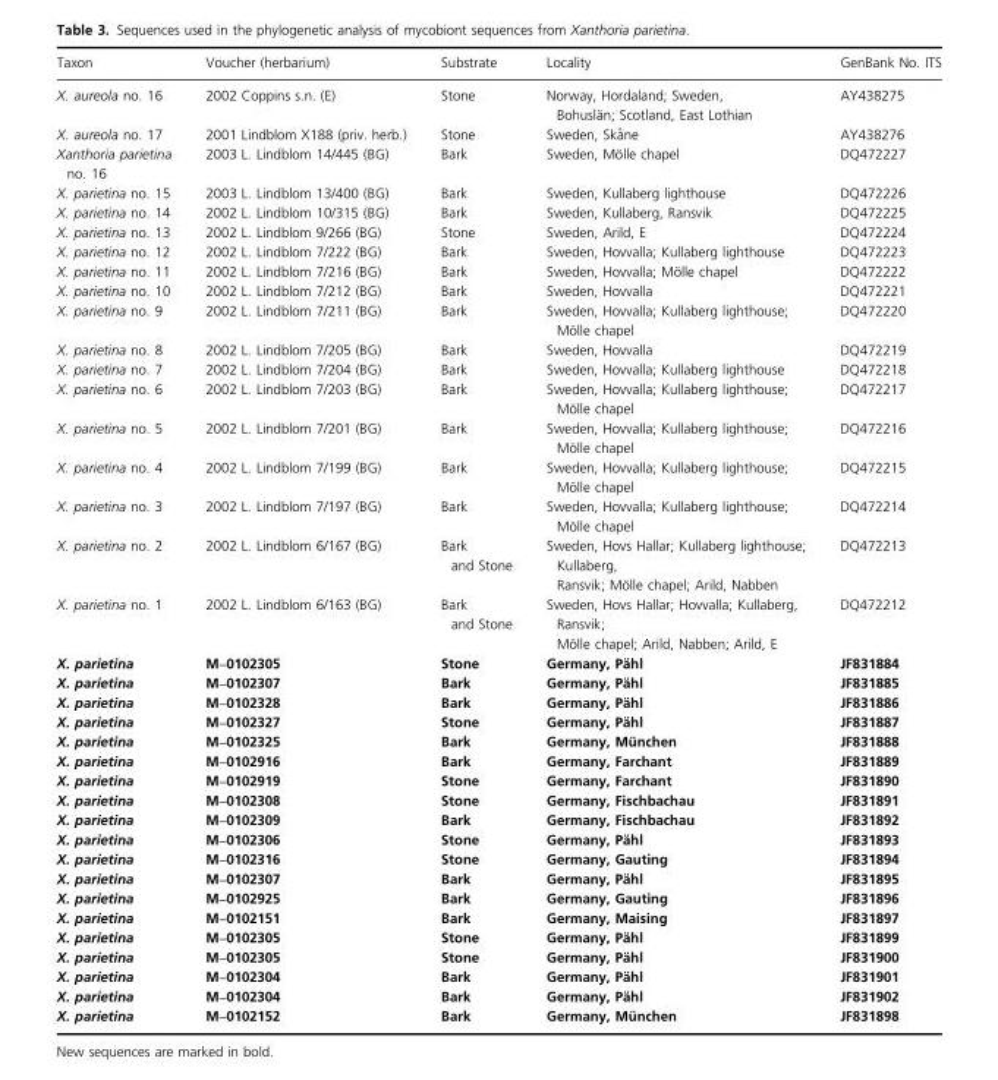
<table><thead><tr><td>Taxon</td><td>Voucher (herbarium)</td><td>Substrate</td><td>Locality</td><td>GenBank No. ITS</td></tr></thead><tbody><tr><td>X. aureola no. 16</td><td>2002 Coppins s.n. (E)</td><td>Stone</td><td>Norway, Hordaland; Sweden, Bohusla¨n; Scotland, East Lothian</td><td>AY438275</td></tr><tr><td>X. aureola no. 17</td><td>2001 Lindblom X188 (priv. herb.)</td><td>Stone</td><td>Sweden, Ska˚ne</td><td>AY438276</td></tr><tr><td>Xanthoria parietina no. 16</td><td>2003 L. Lindblom 14/445 (BG)</td><td>Bark</td><td>Sweden, Mo¨ lle chapel</td><td>DQ472227</td></tr><tr><td>X. parietina no. 15</td><td>2003 L. Lindblom 13/400 (BG)</td><td>Bark</td><td>Sweden, Kullaberg lighthouse</td><td>DQ472226</td></tr><tr><td>X. parietina no. 14</td><td>2002 L. Lindblom 10/315 (BG)</td><td>Bark</td><td>Sweden, Kullaberg, Ransvik</td><td>DQ472225</td></tr><tr><td>X. parietina no. 13</td><td>2002 L. Lindblom 9/266 (BG)</td><td>Stone</td><td>Sweden, Arild, E</td><td>DQ472224</td></tr><tr><td>X. parietina no. 12</td><td>2002 L. Lindblom 7/222 (BG)</td><td>Bark</td><td>Sweden, Hovvalla; Kullaberg lighthouse</td><td>DQ472223</td></tr><tr><td>X. parietina no. 11</td><td>2002 L. Lindblom 7/216 (BG)</td><td>Bark</td><td>Sweden, Hovvalla; Mo¨ lle chapel</td><td>DQ472222</td></tr><tr><td>X. parietina no. 10</td><td>2002 L. Lindblom 7/212 (BG)</td><td>Bark</td><td>Sweden, Hovvalla</td><td>DQ472221</td></tr><tr><td>X. parietina no. 9</td><td>2002 L. Lindblom 7/211 (BG)</td><td>Bark</td><td>Sweden, Hovvalla; Kullaberg lighthouse; Mo¨ lle chapel</td><td>DQ472220</td></tr><tr><td>X. parietina no. 8</td><td>2002 L. Lindblom 7/205 (BG)</td><td>Bark</td><td>Sweden, Hovvalla</td><td>DQ472219</td></tr><tr><td>X. parietina no. 7</td><td>2002 L. Lindblom 7/204 (BG)</td><td>Bark</td><td>Sweden, Hovvalla; Kullaberg lighthouse</td><td>DQ472218</td></tr><tr><td>X. parietina no. 6</td><td>2002 L. Lindblom 7/203 (BG)</td><td>Bark</td><td>Sweden, Hovvalla; Kullaberg lighthouse; Mo¨ lle chapel</td><td>DQ472217</td></tr><tr><td>X. parietina no. 5</td><td>2002 L. Lindblom 7/201 (BG)</td><td>Bark</td><td>Sweden, Hovvalla; Kullaberg lighthouse; Mo¨ lle chapel</td><td>DQ472216</td></tr><tr><td>X. parietina no. 4</td><td>2002 L. Lindblom 7/199 (BG)</td><td>Bark</td><td>Sweden, Hovvalla; Kullaberg lighthouse; Mo¨ lle chapel</td><td>DQ472215</td></tr><tr><td>X. parietina no. 3</td><td>2002 L. Lindblom 7/197 (BG)</td><td>Bark</td><td>Sweden, Hovvalla; Kullaberg lighthouse; Mo¨ lle chapel</td><td>DQ472214</td></tr><tr><td>X. parietina no. 2</td><td>2002 L. Lindblom 6/167 (BG)</td><td>Bark and Stone</td><td>Sweden, Hovs Hallar; Kullaberg lighthouse; Kullaberg, Ransvik; Mo¨ lle chapel; Arild, Nabben</td><td>DQ472213</td></tr><tr><td>X. parietina no. 1</td><td>2002 L. Lindblom 6/163 (BG)</td><td>Bark and Stone</td><td>Sweden, Hovs Hallar; Hovvalla; Kullaberg, Ransvik; Mo¨ lle chapel; Arild, Nabben; Arild, E</td><td>DQ472212</td></tr><tr><td>X. parietina</td><td>M–0102305</td><td>Stone</td><td>Germany, Pa¨hl</td><td>JF831884</td></tr><tr><td>X. parietina</td><td>M–0102307</td><td>Bark</td><td>Germany, Pa¨hl</td><td>JF831885</td></tr><tr><td>X. parietina</td><td>M–0102328</td><td>Bark</td><td>Germany, Pa¨hl</td><td>JF831886</td></tr><tr><td>X. parietina</td><td>M–0102327</td><td>Stone</td><td>Germany, Pa¨hl</td><td>JF831887</td></tr><tr><td>X. parietina</td><td>M–0102325</td><td>Bark</td><td>Germany, Mu¨ nchen</td><td>JF831888</td></tr><tr><td>X. parietina</td><td>M–0102916</td><td>Bark</td><td>Germany, Farchant</td><td>JF831889</td></tr><tr><td>X. parietina</td><td>M–0102919</td><td>Stone</td><td>Germany, Farchant</td><td>JF831890</td></tr><tr><td>X. parietina</td><td>M–0102308</td><td>Stone</td><td>Germany, Fischbachau</td><td>JF831891</td></tr><tr><td>X. parietina</td><td>M–0102309</td><td>Bark</td><td>Germany, Fischbachau</td><td>JF831892</td></tr><tr><td>X. parietina</td><td>M–0102306</td><td>Stone</td><td>Germany, Pa¨hl</td><td>JF831893</td></tr><tr><td>X. parietina</td><td>M–0102316</td><td>Stone</td><td>Germany, Gauting</td><td>JF831894</td></tr><tr><td>X. parietina</td><td>M–0102307</td><td>Bark</td><td>Germany, Pa¨hl</td><td>JF831895</td></tr><tr><td>X. parietina</td><td>M–0102925</td><td>Bark</td><td>Germany, Gauting</td><td>JF831896</td></tr><tr><td>X. parietina</td><td>M–0102151</td><td>Bark</td><td>Germany, Maising</td><td>JF831897</td></tr><tr><td>X. parietina</td><td>M–0102305</td><td>Stone</td><td>Germany, Pa¨hl</td><td>JF831899</td></tr><tr><td>X. parietina</td><td>M–0102305</td><td>Stone</td><td>Germany, Pa¨hl</td><td>JF831900</td></tr><tr><td>X. parietina</td><td>M–0102304</td><td>Bark</td><td>Germany, Pa¨hl</td><td>JF831901</td></tr><tr><td>X. parietina</td><td>M–0102304</td><td>Bark</td><td>Germany, Pa¨hl</td><td>JF831902</td></tr><tr><td>X. parietina</td><td>M–0102152</td><td>Bark</td><td>Germany, Mu¨ nchen</td><td>JF831898</td></tr></tbody></table>